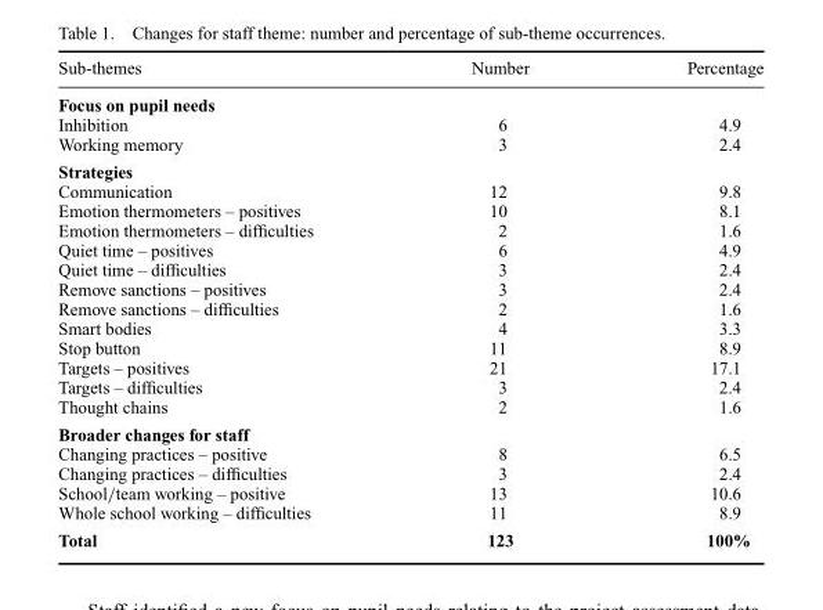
<table><thead><tr><td>Sub-themes</td><td>Number</td><td>Percentage</td></tr></thead><tbody><tr><td colspan="3">Focus on pupil needs</td></tr><tr><td>Inhibition</td><td>6</td><td>4.9</td></tr><tr><td>Working memory</td><td>3</td><td>2.4</td></tr><tr><td colspan="3">Strategies</td></tr><tr><td>Communication</td><td>12</td><td>9.8</td></tr><tr><td>Emotion thermometers – positives</td><td>10</td><td>8.1</td></tr><tr><td>Emotion thermometers – difficulties</td><td>2</td><td>1.6</td></tr><tr><td>Quiet time – positives</td><td>6</td><td>4.9</td></tr><tr><td>Quiet time – difficulties</td><td>3</td><td>2.4</td></tr><tr><td>Remove sanctions – positives</td><td>3</td><td>2.4</td></tr><tr><td>Remove sanctions – difficulties</td><td>2</td><td>1.6</td></tr><tr><td>Smart bodies</td><td>4</td><td>3.3</td></tr><tr><td>Stop button</td><td>11</td><td>8.9</td></tr><tr><td>Targets – positives</td><td>21</td><td>17.1</td></tr><tr><td>Targets – difficulties</td><td>3</td><td>2.4</td></tr><tr><td>Thought chains</td><td>2</td><td>1.6</td></tr><tr><td colspan="3">Broader changes for staff</td></tr><tr><td>Changing practices – positive</td><td>8</td><td>6.5</td></tr><tr><td>Changing practices – difficulties</td><td>3</td><td>2.4</td></tr><tr><td>School/team working – positive</td><td>13</td><td>10.6</td></tr><tr><td>Whole school working – difficulties</td><td>11</td><td>8.9</td></tr><tr><td>Total</td><td>123</td><td>100%</td></tr></tbody></table>